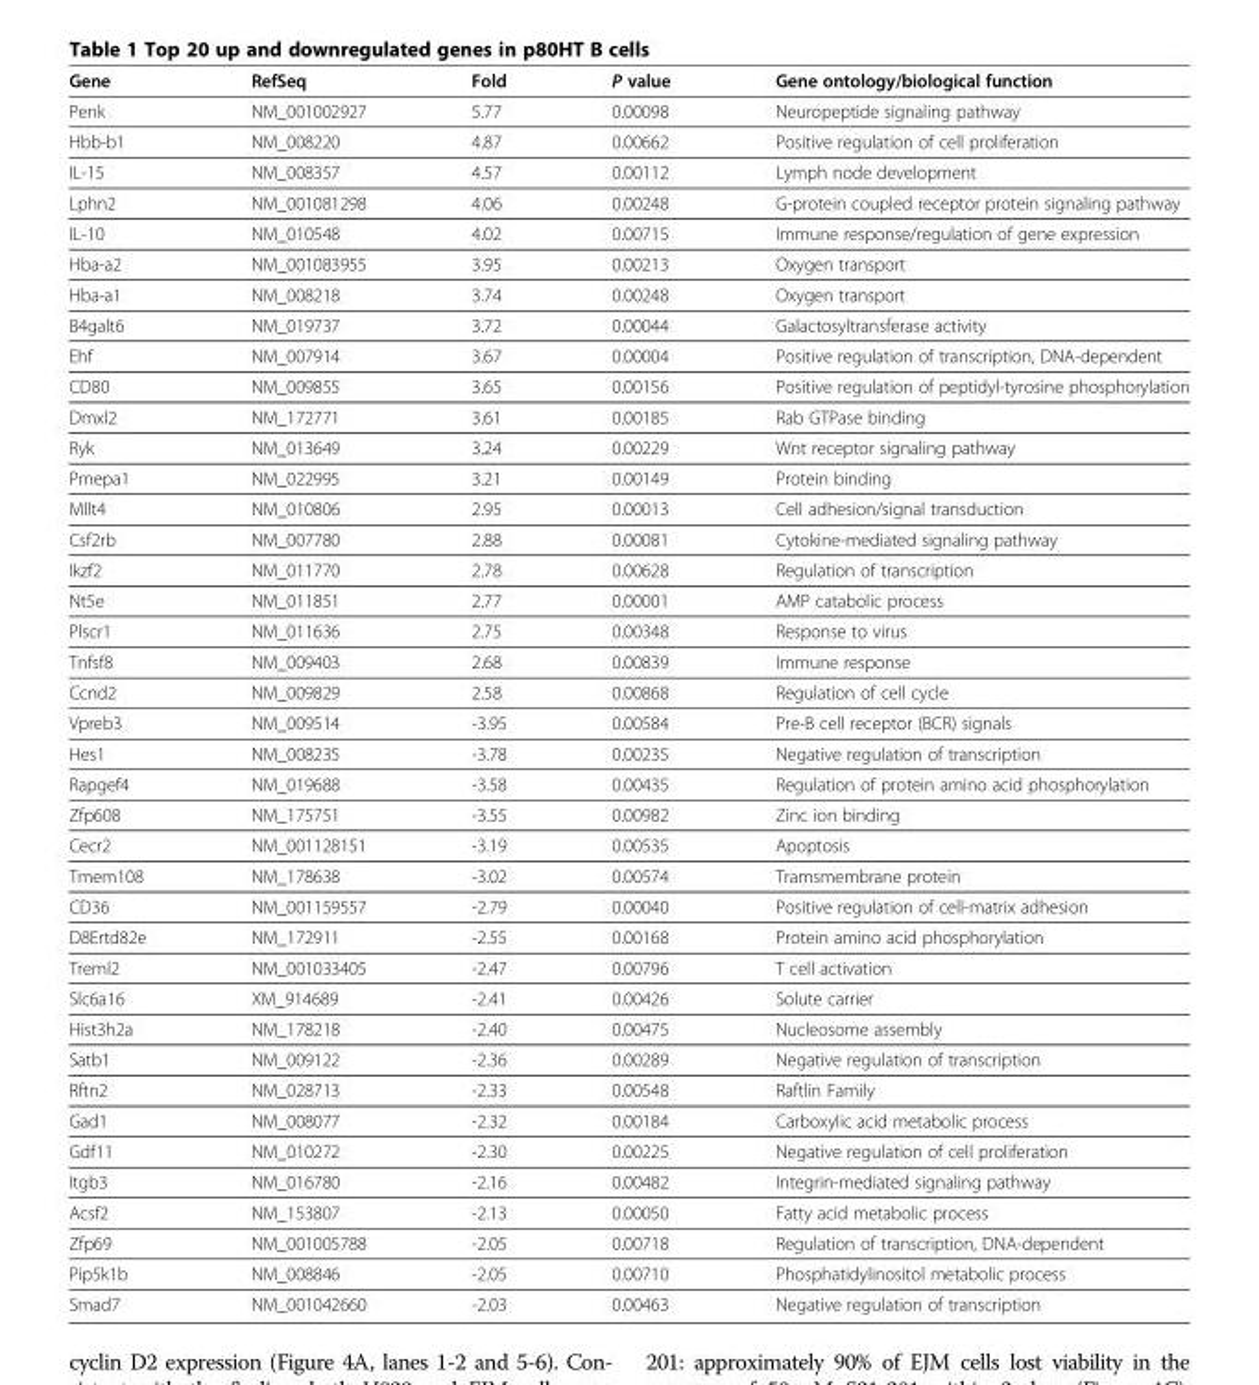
<table><thead><tr><td>Gene</td><td>RefSeq</td><td>Fold</td><td>P value</td><td>Gene ontology/biological function</td></tr></thead><tbody><tr><td>Penk</td><td>NM_001002927</td><td>5.77</td><td>0.00098</td><td>Neuropeptide signaling pathway</td></tr><tr><td>Hbb-b1</td><td>NM_008220</td><td>4.87</td><td>0.00662</td><td>Positive regulation of cell proliferation</td></tr><tr><td>IL-15</td><td>NM_008357</td><td>4.57</td><td>0.00112</td><td>Lymph node development</td></tr><tr><td>Lphn2</td><td>NM_001081298</td><td>4.06</td><td>0.00248</td><td>G-protein coupled receptor protein signaling pathway</td></tr><tr><td>IL-10</td><td>NM_010548</td><td>4.02</td><td>0.00715</td><td>Immune response/regulation of gene expression</td></tr><tr><td>Hba-a2</td><td>NM_001083955</td><td>3.95</td><td>0.00213</td><td>Oxygen transport</td></tr><tr><td>Hba-a1</td><td>NM_008218</td><td>3.74</td><td>0.00248</td><td>Oxygen transport</td></tr><tr><td>B4galt6</td><td>NM_019737</td><td>3.72</td><td>0.00044</td><td>Galactosyltransferase activity</td></tr><tr><td>Ehf</td><td>NM_007914</td><td>3.67</td><td>0.00004</td><td>Positive regulation of transcription, DNA-dependent</td></tr><tr><td>CD80</td><td>NM_009855</td><td>3.65</td><td>0.00156</td><td>Positive regulation of peptidyl-tyrosine phosphorylation</td></tr><tr><td>Dmxl2</td><td>NM_172771</td><td>3.61</td><td>0.00185</td><td>Rab GTPase binding</td></tr><tr><td>Ryk</td><td>NM_013649</td><td>3.24</td><td>0.00229</td><td>Wnt receptor signaling pathway</td></tr><tr><td>Pmepa1</td><td>NM_022995</td><td>3.21</td><td>0.00149</td><td>Protein binding</td></tr><tr><td>Mllt4</td><td>NM_010806</td><td>2.95</td><td>0.00013</td><td>Cell adhesion/signal transduction</td></tr><tr><td>Csf2rb</td><td>NM_007780</td><td>2.88</td><td>0.00081</td><td>Cytokine-mediated signaling pathway</td></tr><tr><td>Ikzf2</td><td>NM_011770</td><td>2.78</td><td>0.00628</td><td>Regulation of transcription</td></tr><tr><td>Nt5e</td><td>NM_011851</td><td>2.77</td><td>0.00001</td><td>AMP catabolic process</td></tr><tr><td>Plscr1</td><td>NM_011636</td><td>2.75</td><td>0.00348</td><td>Response to virus</td></tr><tr><td>Tnfsf8</td><td>NM_009403</td><td>2.68</td><td>0.00839</td><td>Immune response</td></tr><tr><td>Ccnd2</td><td>NM_009829</td><td>2.58</td><td>0.00868</td><td>Regulation of cell cycle</td></tr><tr><td>Vpreb3</td><td>NM_009514</td><td>-3.95</td><td>0.00584</td><td>Pre-B cell receptor (BCR) signals</td></tr><tr><td>Hes1</td><td>NM_008235</td><td>-3.78</td><td>0.00235</td><td>Negative regulation of transcription</td></tr><tr><td>Rapgef4</td><td>NM_019688</td><td>-3.58</td><td>0.00435</td><td>Regulation of protein amino acid phosphorylation</td></tr><tr><td>Zfp608</td><td>NM_175751</td><td>-3.55</td><td>0.00982</td><td>Zinc ion binding</td></tr><tr><td>Cecr2</td><td>NM_001128151</td><td>-3.19</td><td>0.00535</td><td>Apoptosis</td></tr><tr><td>Tmem108</td><td>NM_178638</td><td>-3.02</td><td>0.00574</td><td>Tramsmembrane protein</td></tr><tr><td>CD36</td><td>NM_001159557</td><td>-2.79</td><td>0.00040</td><td>Positive regulation of cell-matrix adhesion</td></tr><tr><td>D8Ertd82e</td><td>NM_172911</td><td>-2.55</td><td>0.00168</td><td>Protein amino acid phosphorylation</td></tr><tr><td>Treml2</td><td>NM_001033405</td><td>-2.47</td><td>0.00796</td><td>T cell activation</td></tr><tr><td>Slc6a16</td><td>XM_914689</td><td>-2.41</td><td>0.00426</td><td>Solute carrier</td></tr><tr><td>Hist3h2a</td><td>NM_178218</td><td>-2.40</td><td>0.00475</td><td>Nucleosome assembly</td></tr><tr><td>Satb1</td><td>NM_009122</td><td>-2.36</td><td>0.00289</td><td>Negative regulation of transcription</td></tr><tr><td>Rftn2</td><td>NM_028713</td><td>-2.33</td><td>0.00548</td><td>Raftlin Family</td></tr><tr><td>Gad1</td><td>NM_008077</td><td>-2.32</td><td>0.00184</td><td>Carboxylic acid metabolic process</td></tr><tr><td>Gdf11</td><td>NM_010272</td><td>-2.30</td><td>0.00225</td><td>Negative regulation of cell proliferation</td></tr><tr><td>Itgb3</td><td>NM_016780</td><td>-2.16</td><td>0.00482</td><td>Integrin-mediated signaling pathway</td></tr><tr><td>Acsf2</td><td>NM_153807</td><td>-2.13</td><td>0.00050</td><td>Fatty acid metabolic process</td></tr><tr><td>Zfp69</td><td>NM_001005788</td><td>-2.05</td><td>0.00718</td><td>Regulation of transcription, DNA-dependent</td></tr><tr><td>Pip5k1b</td><td>NM_008846</td><td>-2.05</td><td>0.00710</td><td>Phosphatidylinositol metabolic process</td></tr><tr><td>Smad7</td><td>NM_001042660</td><td>-2.03</td><td>0.00463</td><td>Negative regulation of transcription</td></tr></tbody></table>